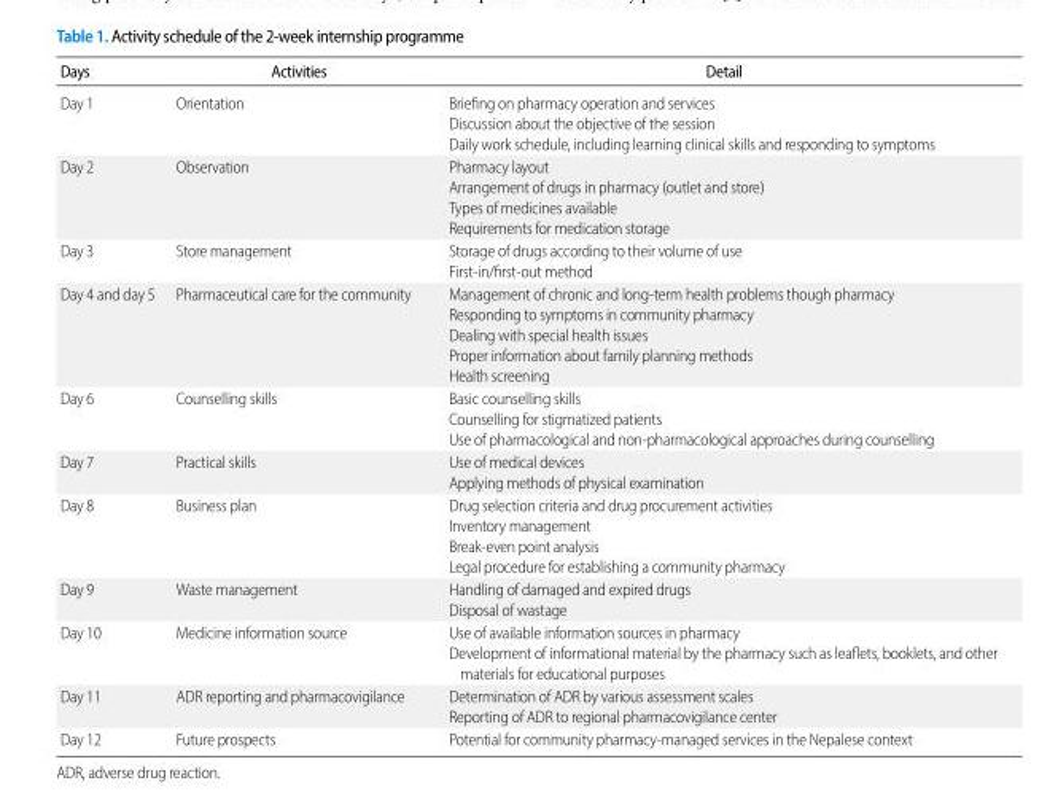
<table><thead><tr><td>Days</td><td>Activities</td><td>Detail</td></tr></thead><tbody><tr><td rowspan="3">Day 1</td><td>Orientation</td><td>Briefing on pharmacy operation and services</td></tr><tr><td></td><td>Discussion about the objective of the session</td></tr><tr><td></td><td>Daily work schedule, including learning clinical skills and responding to symptoms</td></tr><tr><td rowspan="4">Day 2</td><td>Observation</td><td>Pharmacy layout</td></tr><tr><td></td><td>Arrangement of drugs in pharmacy (outlet and store)</td></tr><tr><td></td><td>Types of medicines available</td></tr><tr><td></td><td>Requirements for medication storage</td></tr><tr><td rowspan="2">Day 3</td><td>Store management</td><td>Storage of drugs according to their volume of use</td></tr><tr><td></td><td>First-in/first-out method</td></tr><tr><td rowspan="5">Day 4 and day 5</td><td>Pharmaceutical care for the community</td><td>Management of chronic and long-term health problems though pharmacy</td></tr><tr><td></td><td>Responding to symptoms in community pharmacy</td></tr><tr><td></td><td>Dealing with special health issues</td></tr><tr><td></td><td>Proper information about family planning methods</td></tr><tr><td></td><td>Health screening</td></tr><tr><td rowspan="3">Day 6</td><td>Counselling skills</td><td>Basic counselling skills</td></tr><tr><td></td><td>Counselling for stigmatized patients</td></tr><tr><td></td><td>Use of pharmacological and non-pharmacological approaches during counselling</td></tr><tr><td rowspan="2">Day 7</td><td>Practical skills</td><td>Use of medical devices</td></tr><tr><td></td><td>Applying methods of physical examination</td></tr><tr><td rowspan="4">Day 8</td><td>Business plan</td><td>Drug selection criteria and drug procurement activities</td></tr><tr><td></td><td>Inventory management</td></tr><tr><td></td><td>Break-even point analysis</td></tr><tr><td></td><td>Legal procedure for establishing a community pharmacy</td></tr><tr><td rowspan="2">Day 9</td><td>Waste management</td><td>Handling of damaged and expired drugs</td></tr><tr><td></td><td>Disposal of wastage</td></tr><tr><td rowspan="2">Day 10</td><td>Medicine information source</td><td>Use of available information sources in pharmacy</td></tr><tr><td></td><td>Development of informational material by the pharmacy such as leaflets, booklets, and other materials for educational purposes</td></tr><tr><td rowspan="2">Day 11</td><td>ADR reporting and pharmacovigilance</td><td>Determination of ADR by various assessment scales</td></tr><tr><td></td><td>Reporting of ADR to regional pharmacovigilance center</td></tr><tr><td>Day 12</td><td>Future prospects</td><td>Potential for community pharmacy-managed services in the Nepalese context</td></tr></tbody></table>